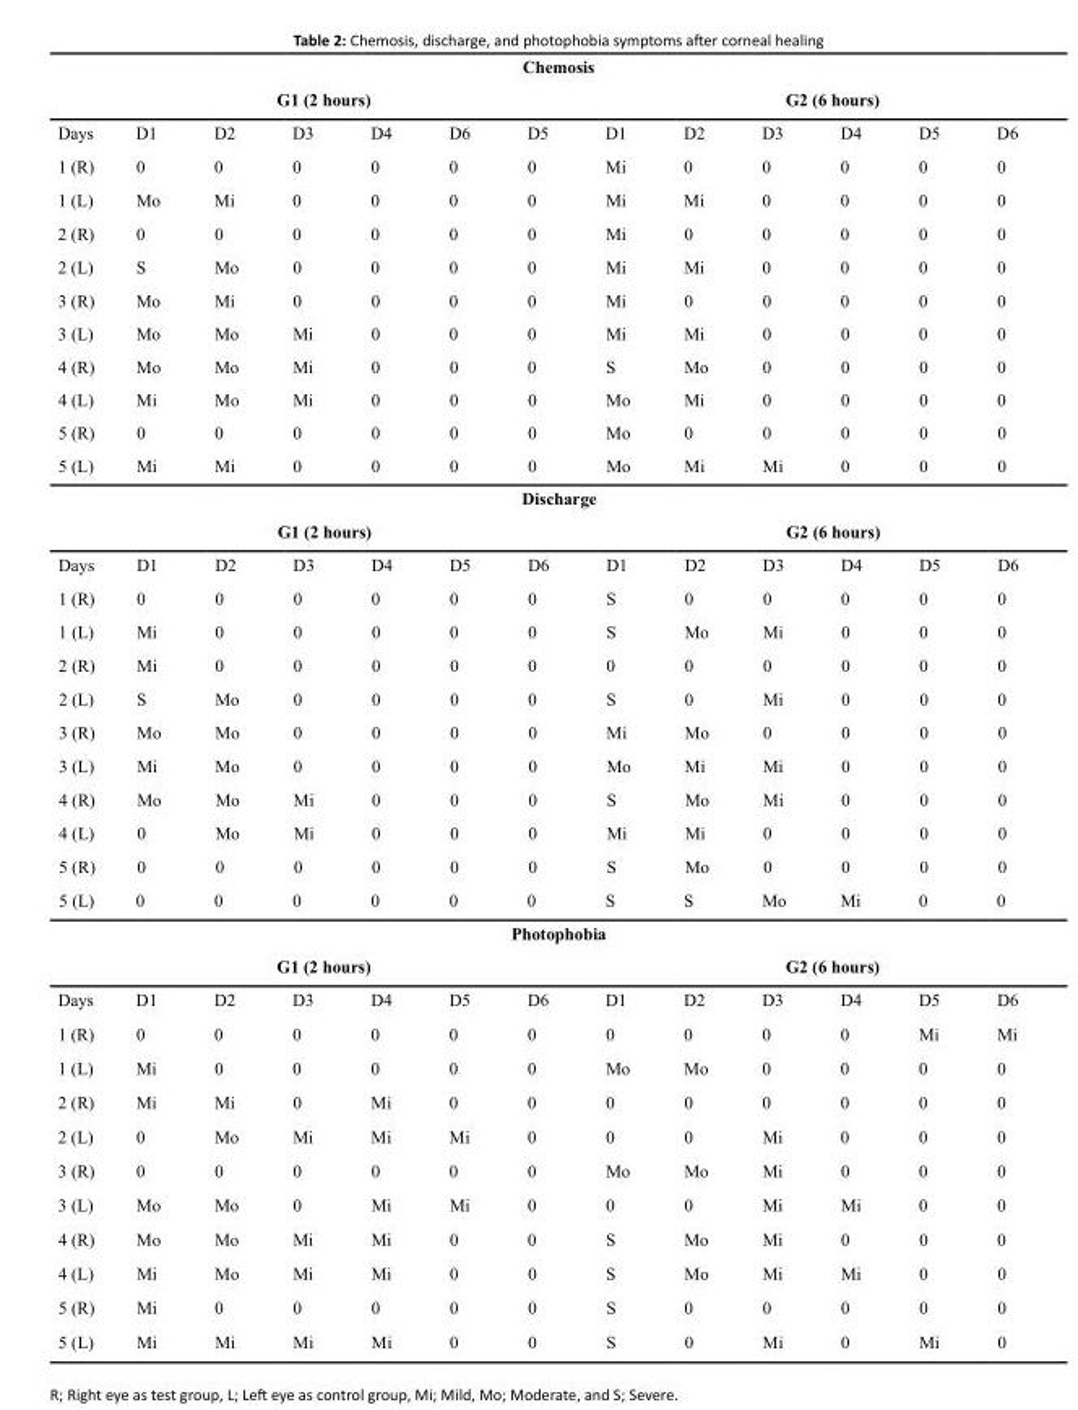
<table><thead><tr><td colspan="13">Chemosis</td></tr><tr><td colspan="7">G1 (2 hours)</td><td colspan="6">G2 (6 hours)</td></tr><tr><td>Days</td><td>D1</td><td>D2</td><td>D3</td><td>D4</td><td>D6</td><td>D5</td><td>D1</td><td>D2</td><td>D3</td><td>D4</td><td>D5</td><td>D6</td></tr></thead><tbody><tr><td>1 (R)</td><td>0</td><td>0</td><td>0</td><td>0</td><td>0</td><td>0</td><td>Mi</td><td>0</td><td>0</td><td>0</td><td>0</td><td>0</td></tr><tr><td>1 (L)</td><td>Mo</td><td>Mi</td><td>0</td><td>0</td><td>0</td><td>0</td><td>Mi</td><td>Mi</td><td>0</td><td>0</td><td>0</td><td>0</td></tr><tr><td>2 (R)</td><td>0</td><td>0</td><td>0</td><td>0</td><td>0</td><td>0</td><td>Mi</td><td>0</td><td>0</td><td>0</td><td>0</td><td>0</td></tr><tr><td>2 (L)</td><td>S</td><td>Mo</td><td>0</td><td>0</td><td>0</td><td>0</td><td>Mi</td><td>Mi</td><td>0</td><td>0</td><td>0</td><td>0</td></tr><tr><td>3 (R)</td><td>Mo</td><td>Mi</td><td>0</td><td>0</td><td>0</td><td>0</td><td>Mi</td><td>0</td><td>0</td><td>0</td><td>0</td><td>0</td></tr><tr><td>3 (L)</td><td>Mo</td><td>Mo</td><td>Mi</td><td>0</td><td>0</td><td>0</td><td>Mi</td><td>Mi</td><td>0</td><td>0</td><td>0</td><td>0</td></tr><tr><td>4 (R)</td><td>Mo</td><td>Mo</td><td>Mi</td><td>0</td><td>0</td><td>0</td><td>S</td><td>Mo</td><td>0</td><td>0</td><td>0</td><td>0</td></tr><tr><td>4 (L)</td><td>Mi</td><td>Mo</td><td>Mi</td><td>0</td><td>0</td><td>0</td><td>Mo</td><td>Mi</td><td>0</td><td>0</td><td>0</td><td>0</td></tr><tr><td>5 (R)</td><td>0</td><td>0</td><td>0</td><td>0</td><td>0</td><td>0</td><td>Mo</td><td>0</td><td>0</td><td>0</td><td>0</td><td>0</td></tr><tr><td>5 (L)</td><td>Mi</td><td>Mi</td><td>0</td><td>0</td><td>0</td><td>0</td><td>Mo</td><td>Mi</td><td>Mi</td><td>0</td><td>0</td><td>0</td></tr><tr><td colspan="13">Discharge</td></tr><tr><td colspan="7">G1 (2 hours)</td><td colspan="6">G2 (6 hours)</td></tr><tr><td>Days</td><td>D1</td><td>D2</td><td>D3</td><td>D4</td><td>D5</td><td>D6</td><td>D1</td><td>D2</td><td>D3</td><td>D4</td><td>D5</td><td>D6</td></tr><tr><td>1 (R)</td><td>0</td><td>0</td><td>0</td><td>0</td><td>0</td><td>0</td><td>S</td><td>0</td><td>0</td><td>0</td><td>0</td><td>0</td></tr><tr><td>1 (L)</td><td>Mi</td><td>0</td><td>0</td><td>0</td><td>0</td><td>0</td><td>S</td><td>Mo</td><td>Mi</td><td>0</td><td>0</td><td>0</td></tr><tr><td>2 (R)</td><td>Mi</td><td>0</td><td>0</td><td>0</td><td>0</td><td>0</td><td>0</td><td>0</td><td>0</td><td>0</td><td>0</td><td>0</td></tr><tr><td>2 (L)</td><td>S</td><td>Mo</td><td>0</td><td>0</td><td>0</td><td>0</td><td>S</td><td>0</td><td>Mi</td><td>0</td><td>0</td><td>0</td></tr><tr><td>3 (R)</td><td>Mo</td><td>Mo</td><td>0</td><td>0</td><td>0</td><td>0</td><td>Mi</td><td>Mo</td><td>0</td><td>0</td><td>0</td><td>0</td></tr><tr><td>3 (L)</td><td>Mi</td><td>Mo</td><td>0</td><td>0</td><td>0</td><td>0</td><td>Mo</td><td>Mi</td><td>Mi</td><td>0</td><td>0</td><td>0</td></tr><tr><td>4 (R)</td><td>Mo</td><td>Mo</td><td>Mi</td><td>0</td><td>0</td><td>0</td><td>S</td><td>Mo</td><td>Mi</td><td>0</td><td>0</td><td>0</td></tr><tr><td>4 (L)</td><td>0</td><td>Mo</td><td>Mi</td><td>0</td><td>0</td><td>0</td><td>Mi</td><td>Mi</td><td>0</td><td>0</td><td>0</td><td>0</td></tr><tr><td>5 (R)</td><td>0</td><td>0</td><td>0</td><td>0</td><td>0</td><td>0</td><td>S</td><td>Mo</td><td>0</td><td>0</td><td>0</td><td>0</td></tr><tr><td>5 (L)</td><td>0</td><td>0</td><td>0</td><td>0</td><td>0</td><td>0</td><td>S</td><td>S</td><td>Mo</td><td>Mi</td><td>0</td><td>0</td></tr><tr><td colspan="13">Photophobia</td></tr><tr><td colspan="7">G1 (2 hours)</td><td colspan="6">G2 (6 hours)</td></tr><tr><td>Days</td><td>D1</td><td>D2</td><td>D3</td><td>D4</td><td>D5</td><td>D6</td><td>D1</td><td>D2</td><td>D3</td><td>D4</td><td>D5</td><td>D6</td></tr><tr><td>1 (R)</td><td>0</td><td>0</td><td>0</td><td>0</td><td>0</td><td>0</td><td>0</td><td>0</td><td>0</td><td>0</td><td>Mi</td><td>Mi</td></tr><tr><td>1 (L)</td><td>Mi</td><td>0</td><td>0</td><td>0</td><td>0</td><td>0</td><td>Mo</td><td>Mo</td><td>0</td><td>0</td><td>0</td><td>0</td></tr><tr><td>2 (R)</td><td>Mi</td><td>Mi</td><td>0</td><td>Mi</td><td>0</td><td>0</td><td>0</td><td>0</td><td>0</td><td>0</td><td>0</td><td>0</td></tr><tr><td>2 (L)</td><td>0</td><td>Mo</td><td>Mi</td><td>Mi</td><td>Mi</td><td>0</td><td>0</td><td>0</td><td>Mi</td><td>0</td><td>0</td><td>0</td></tr><tr><td>3 (R)</td><td>0</td><td>0</td><td>0</td><td>0</td><td>0</td><td>0</td><td>Mo</td><td>Mo</td><td>Mi</td><td>0</td><td>0</td><td>0</td></tr><tr><td>3 (L)</td><td>Mo</td><td>Mo</td><td>0</td><td>Mi</td><td>Mi</td><td>0</td><td>0</td><td>0</td><td>Mi</td><td>Mi</td><td>0</td><td>0</td></tr><tr><td>4 (R)</td><td>Mo</td><td>Mo</td><td>Mi</td><td>Mi</td><td>0</td><td>0</td><td>S</td><td>Mo</td><td>Mi</td><td>0</td><td>0</td><td>0</td></tr><tr><td>4 (L)</td><td>Mi</td><td>Mo</td><td>Mi</td><td>Mi</td><td>0</td><td>0</td><td>S</td><td>Mo</td><td>Mi</td><td>Mi</td><td>0</td><td>0</td></tr><tr><td>5 (R)</td><td>Mi</td><td>0</td><td>0</td><td>0</td><td>0</td><td>0</td><td>S</td><td>0</td><td>0</td><td>0</td><td>0</td><td>0</td></tr><tr><td>5 (L)</td><td>Mi</td><td>Mi</td><td>Mi</td><td>Mi</td><td>0</td><td>0</td><td>S</td><td>0</td><td>Mi</td><td>0</td><td>Mi</td><td>0</td></tr></tbody></table>